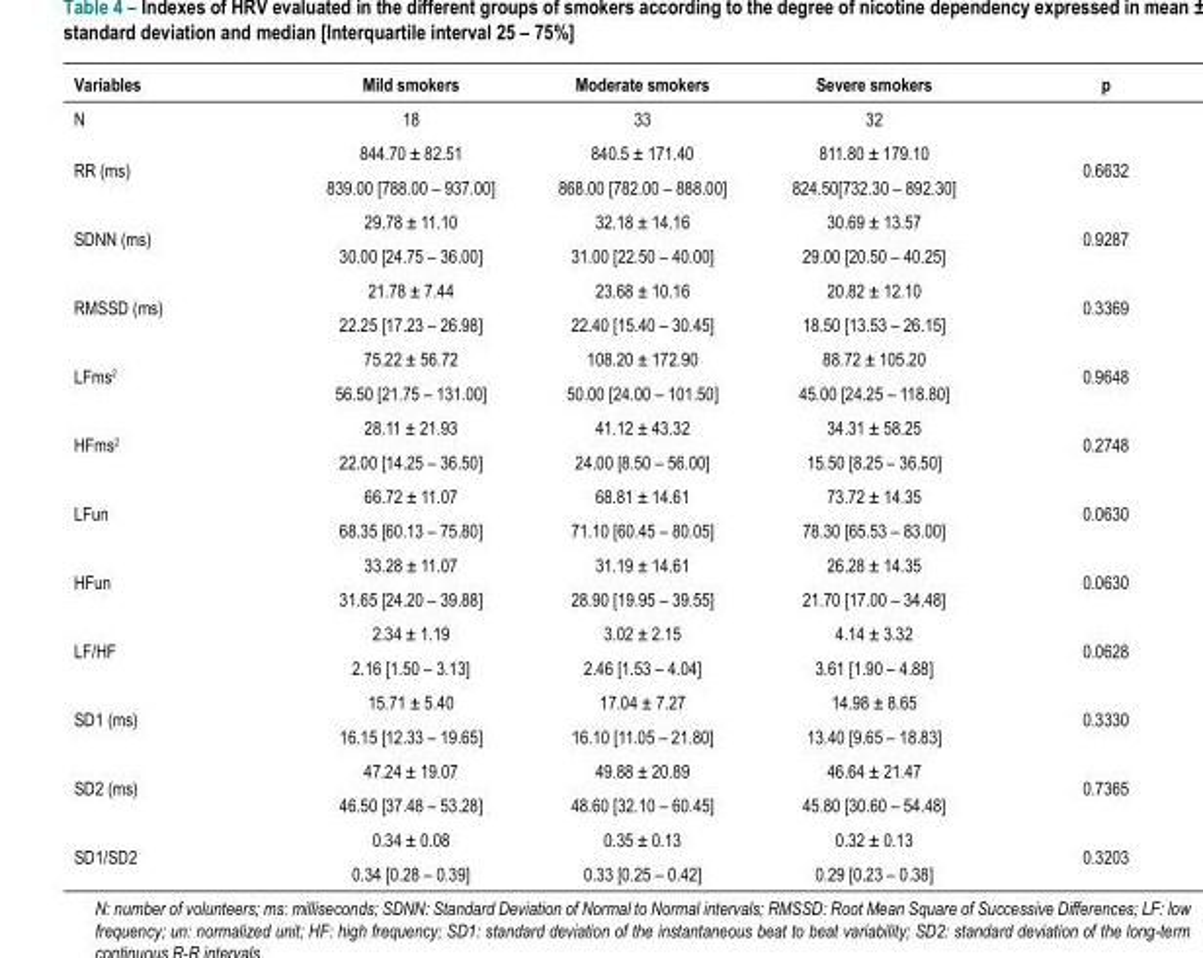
<table><thead><tr><td>Variables</td><td>Mild smokers</td><td>Moderate smokers</td><td>Severe smokers</td><td>p</td></tr></thead><tbody><tr><td>N</td><td>18</td><td>33</td><td>32</td><td></td></tr><tr><td rowspan="2">RR (ms)</td><td>844.70 ± 82.51</td><td>840.5 ± 171.40</td><td>811.80 ± 179.10</td><td rowspan="2">0.6632</td></tr><tr><td>839.00 [788.00 – 937.00]</td><td>868.00 [782.00 – 888.00]</td><td>824.50[732.30 – 892.30]</td></tr><tr><td rowspan="2">SDNN (ms)</td><td>29.78 ± 11.10</td><td>32.18 ± 14.16</td><td>30.69 ± 13.57</td><td rowspan="2">0.9287</td></tr><tr><td>30.00 [24.75 – 36.00]</td><td>31.00 [22.50 – 40.00]</td><td>29.00 [20.50 – 40.25]</td></tr><tr><td rowspan="2">RMSSD (ms)</td><td>21.78 ± 7.44</td><td>23.68 ± 10.16</td><td>20.82 ± 12.10</td><td rowspan="2">0.3369</td></tr><tr><td>22.25 [17.23 – 26.98]</td><td>22.40 [15.40 – 30.45]</td><td>18.50 [13.53 – 26.15]</td></tr><tr><td rowspan="2">LFms2</td><td>75.22 ± 56.72</td><td>108.20 ± 172.90</td><td>88.72 ± 105.20</td><td rowspan="2">0.9648</td></tr><tr><td>56.50 [21.75 – 131.00]</td><td>50.00 [24.00 – 101.50]</td><td>45.00 [24.25 – 118.80]</td></tr><tr><td rowspan="2">HFms<sup>2</sup></td><td>28.11 ± 21.93</td><td>41.12 ± 43.32</td><td>34.31 ± 58.25</td><td rowspan="2">0.2748</td></tr><tr><td>22.00 [14.25 – 36.50]</td><td>24.00 [8.50 – 56.00]</td><td>15.50 [8.25 – 36.50]</td></tr><tr><td rowspan="2">LFun</td><td>66.72 ± 11.07</td><td>68.81 ± 14.61</td><td>73.72 ± 14.35</td><td rowspan="2">0.0630</td></tr><tr><td>68.35 [60.13 – 75.80]</td><td>71.10 [60.45 – 80.05]</td><td>78.30 [65.53 – 83.00]</td></tr><tr><td rowspan="2">HFun</td><td>33.28 ± 11.07</td><td>31.19 ± 14.61</td><td>26.28 ± 14.35</td><td rowspan="2">0.0630</td></tr><tr><td>31.65 [24.20 – 39.88]</td><td>28.90 [19.95 – 39.55]</td><td>21.70 [17.00 – 34.48]</td></tr><tr><td rowspan="2">LF/HF</td><td>2.34 ± 1.19</td><td>3.02 ± 2.15</td><td>4.14 ± 3.32</td><td rowspan="2">0.0628</td></tr><tr><td>2.16 [1.50 – 3.13]</td><td>2.46 [1.53 – 4.04]</td><td>3.61 [1.90 – 4.88]</td></tr><tr><td rowspan="2">SD1 (ms)</td><td>15.71 ± 5.40</td><td>17.04 ± 7.27</td><td>14.98 ± 8.65</td><td rowspan="2">0.3330</td></tr><tr><td>16.15 [12.33 – 19.65]</td><td>16.10 [11.05 – 21.80]</td><td>13.40 [9.65 – 18.83]</td></tr><tr><td rowspan="2">SD2 (ms)</td><td>47.24 ± 19.07</td><td>49.88 ± 20.89</td><td>46.64 ± 21.47</td><td rowspan="2">0.7365</td></tr><tr><td>46.50 [37.48 – 53.28]</td><td>48.60 [32.10 – 60.45]</td><td>45.80 [30.60 – 54.48]</td></tr><tr><td rowspan="2">SD1/SD2</td><td>0.34 ± 0.08</td><td>0.35 ± 0.13</td><td>0.32 ± 0.13</td><td rowspan="2">0.3203</td></tr><tr><td>0.34 [0.28 – 0.39]</td><td>0.33 [0.25 – 0.42]</td><td>0.29 [0.23 – 0.38]</td></tr></tbody></table>